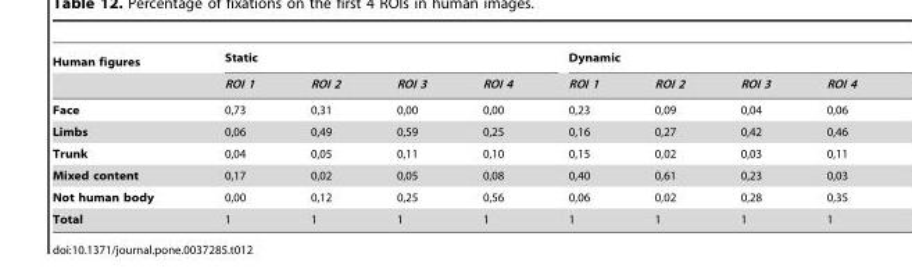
<table><thead><tr><td rowspan="2">Human figures</td><td colspan="4">Static</td><td colspan="4">Dynamic</td></tr><tr><td>ROI 1</td><td>ROI 2</td><td>ROI 3</td><td>ROI 4</td><td>ROI 1</td><td>ROI 2</td><td>ROI 3</td><td>ROI 4</td></tr></thead><tbody><tr><td>Face</td><td>0,73</td><td>0,31</td><td>0,00</td><td>0,00</td><td>0,23</td><td>0,09</td><td>0,04</td><td>0,06</td></tr><tr><td>Limbs</td><td>0,06</td><td>0,49</td><td>0,59</td><td>0,25</td><td>0,16</td><td>0,27</td><td>0,42</td><td>0,46</td></tr><tr><td>Trunk</td><td>0,04</td><td>0,05</td><td>0,11</td><td>0,10</td><td>0,15</td><td>0,02</td><td>0,03</td><td>0,11</td></tr><tr><td>Mixed content</td><td>0,17</td><td>0,02</td><td>0,05</td><td>0,08</td><td>0,40</td><td>0,61</td><td>0,23</td><td>0,03</td></tr><tr><td>Not human body</td><td>0,00</td><td>0,12</td><td>0,25</td><td>0,56</td><td>0,06</td><td>0,02</td><td>0,28</td><td>0,35</td></tr><tr><td>Total</td><td>1</td><td>1</td><td>1</td><td>1</td><td>1</td><td>1</td><td>1</td><td>1</td></tr></tbody></table>